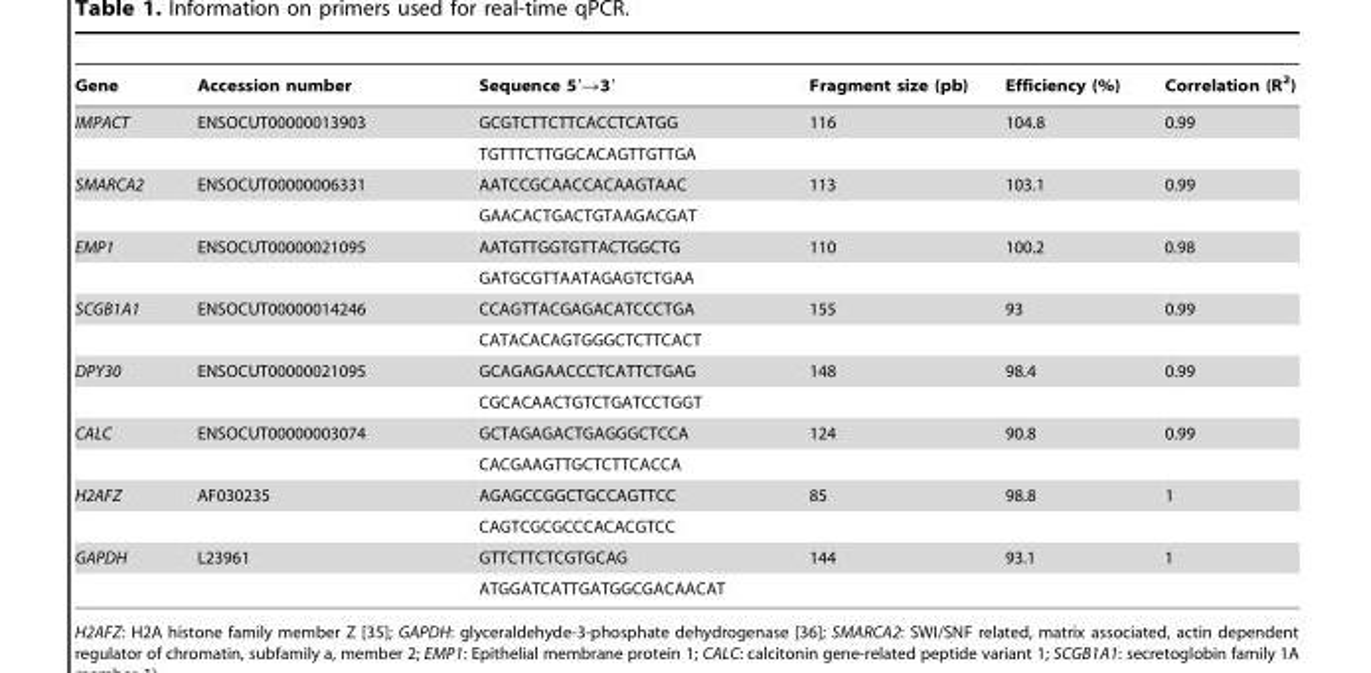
<table><thead><tr><td>Gene</td><td>Accession number</td><td>Sequence 5′→3′</td><td>Fragment size (pb)</td><td>Efficiency (%)</td><td>Correlation (R<sup>2</sup>)</td></tr></thead><tbody><tr><td rowspan="2">IMPACT</td><td>ENSOCUT00000013903</td><td>GCGTCTTCTTCACCTCATGG</td><td>116</td><td>104.8</td><td>0.99</td></tr><tr><td></td><td>TGTTTCTTGGCACAGTTGTTGA</td><td></td><td></td><td></td></tr><tr><td rowspan="2">SMARCA2</td><td>ENSOCUT00000006331</td><td>AATCCGCAACCACAAGTAAC</td><td>113</td><td>103.1</td><td>0.99</td></tr><tr><td></td><td>GAACACTGACTGTAAGACGAT</td><td></td><td></td><td></td></tr><tr><td rowspan="2">EMP1</td><td>ENSOCUT00000021095</td><td>AATGTTGGTGTTACTGGCTG</td><td>110</td><td>100.2</td><td>0.98</td></tr><tr><td></td><td>GATGCGTTAATAGAGTCTGAA</td><td></td><td></td><td></td></tr><tr><td rowspan="2">SCGB1A1</td><td>ENSOCUT00000014246</td><td>CCAGTTACGAGACATCCCTGA</td><td>155</td><td>93</td><td>0.99</td></tr><tr><td></td><td>CATACACAGTGGGCTCTTCACT</td><td></td><td></td><td></td></tr><tr><td rowspan="2">DPY30</td><td>ENSOCUT00000021095</td><td>GCAGAGAACCCTCATTCTGAG</td><td>148</td><td>98.4</td><td>0.99</td></tr><tr><td></td><td>CGCACAACTGTCTGATCCTGGT</td><td></td><td></td><td></td></tr><tr><td rowspan="2">CALC</td><td>ENSOCUT00000003074</td><td>GCTAGAGACTGAGGGCTCCA</td><td>124</td><td>90.8</td><td>0.99</td></tr><tr><td></td><td>CACGAAGTTGCTCTTCACCA</td><td></td><td></td><td></td></tr><tr><td rowspan="2">H2AFZ</td><td>AF030235</td><td>AGAGCCGGCTGCCAGTTCC</td><td>85</td><td>98.8</td><td>1</td></tr><tr><td></td><td>CAGTCGCGCCCACACGTCC</td><td></td><td></td><td></td></tr><tr><td rowspan="2">GAPDH</td><td>L23961</td><td>GTTCTTCTCGTGCAG</td><td>144</td><td>93.1</td><td>1</td></tr><tr><td></td><td>ATGGATCATTGATGGCGACAACAT</td><td></td><td></td><td></td></tr></tbody></table>